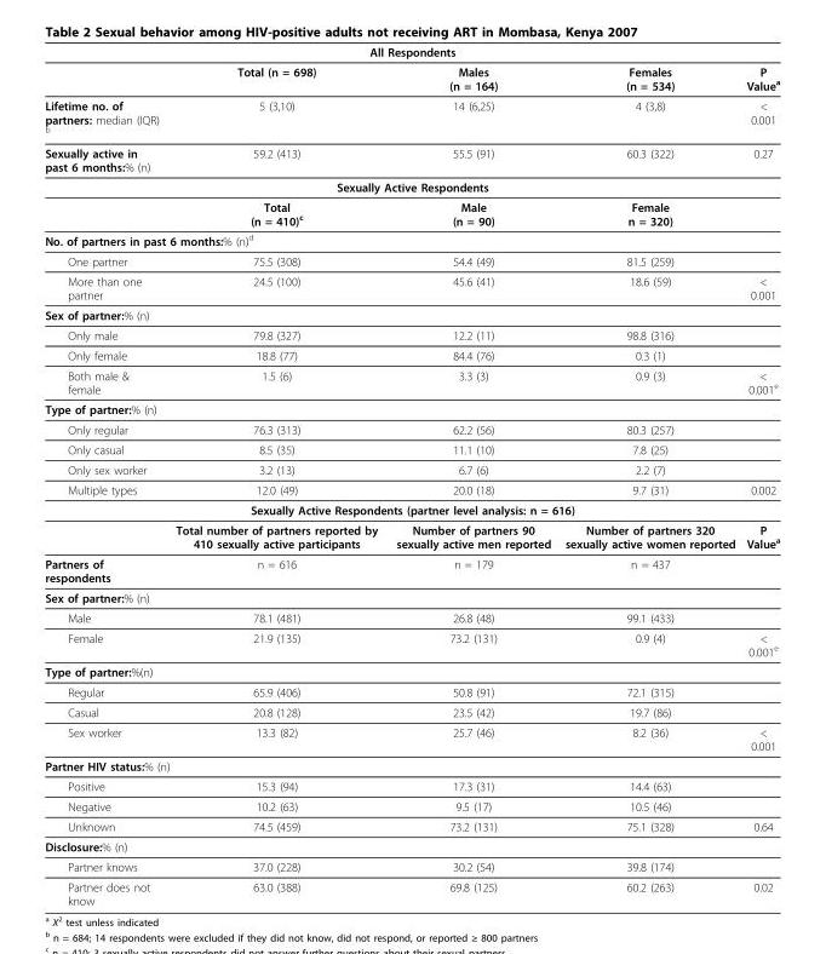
<table><thead><tr><td colspan="5">All Respondents</td></tr><tr><td></td><td>Total (n = 698)</td><td>Males (n = 164)</td><td>Females (n = 534)</td><td>P Valuea</td></tr></thead><tbody><tr><td>Lifetime no. of partners: median (IQR) b</td><td>5 (3,10)</td><td>14 (6,25)</td><td>4 (3,8)</td><td>&lt; 0.001</td></tr><tr><td>Sexually active in past 6 months:% (n)</td><td>59.2 (413)</td><td>55.5 (91)</td><td>60.3 (322)</td><td>0.27</td></tr><tr><td colspan="5">Sexually Active Respondents</td></tr><tr><td></td><td>Total (n = 410)c</td><td>Male (n = 90)</td><td>Female n = 320)</td><td></td></tr><tr><td colspan="5">No. of partners in past 6 months:% (n)d</td></tr><tr><td>One partner</td><td>75.5 (308)</td><td>54.4 (49)</td><td>81.5 (259)</td><td></td></tr><tr><td>More than one partner</td><td>24.5 (100)</td><td>45.6 (41)</td><td>18.6 (59)</td><td>&lt; 0.001</td></tr><tr><td colspan="5">Sex of partner:% (n)</td></tr><tr><td>Only male</td><td>79.8 (327)</td><td>12.2 (11)</td><td>98.8 (316)</td><td></td></tr><tr><td>Only female</td><td>18.8 (77)</td><td>84.4 (76)</td><td>0.3 (1)</td><td></td></tr><tr><td>Both male &amp; female</td><td>1.5 (6)</td><td>3.3 (3)</td><td>0.9 (3)</td><td>&lt; 0.001e</td></tr><tr><td colspan="5">Type of partner:% (n)</td></tr><tr><td>Only regular</td><td>76.3 (313)</td><td>62.2 (56)</td><td>80.3 (257)</td><td></td></tr><tr><td>Only casual</td><td>8.5 (35)</td><td>11.1 (10)</td><td>7.8 (25)</td><td></td></tr><tr><td>Only sex worker</td><td>3.2 (13)</td><td>6.7 (6)</td><td>2.2 (7)</td><td></td></tr><tr><td>Multiple types</td><td>12.0 (49)</td><td>20.0 (18)</td><td>9.7 (31)</td><td>0.002</td></tr><tr><td colspan="5">Sexually Active Respondents (partner level analysis: n = 616)</td></tr><tr><td></td><td>Total number of partners reported by 410 sexually active participants</td><td>Number of partners 90 sexually active men reported</td><td>Number of partners 320 sexually active women reported</td><td>P Valuea</td></tr><tr><td>Partners of respondents</td><td>n = 616</td><td>n = 179</td><td>n = 437</td><td></td></tr><tr><td colspan="5">Sex of partner:% (n)</td></tr><tr><td>Male</td><td>78.1 (481)</td><td>26.8 (48)</td><td>99.1 (433)</td><td></td></tr><tr><td>Female</td><td>21.9 (135)</td><td>73.2 (131)</td><td>0.9 (4)</td><td>&lt; 0.001e</td></tr><tr><td colspan="5">Type of partner:%(n)</td></tr><tr><td>Regular</td><td>65.9 (406)</td><td>50.8 (91)</td><td>72.1 (315)</td><td></td></tr><tr><td>Casual</td><td>20.8 (128)</td><td>23.5 (42)</td><td>19.7 (86)</td><td></td></tr><tr><td>Sex worker</td><td>13.3 (82)</td><td>25.7 (46)</td><td>8.2 (36)</td><td>&lt; 0.001</td></tr><tr><td colspan="5">Partner HIV status:% (n)</td></tr><tr><td>Positive</td><td>15.3 (94)</td><td>17.3 (31)</td><td>14.4 (63)</td><td></td></tr><tr><td>Negative</td><td>10.2 (63)</td><td>9.5 (17)</td><td>10.5 (46)</td><td></td></tr><tr><td>Unknown</td><td>74.5 (459)</td><td>73.2 (131)</td><td>75.1 (328)</td><td>0.64</td></tr><tr><td colspan="5">Disclosure:% (n)</td></tr><tr><td>Partner knows</td><td>37.0 (228)</td><td>30.2 (54)</td><td>39.8 (174)</td><td></td></tr><tr><td>Partner does not know</td><td>63.0 (388)</td><td>69.8 (125)</td><td>60.2 (263)</td><td>0.02</td></tr></tbody></table>